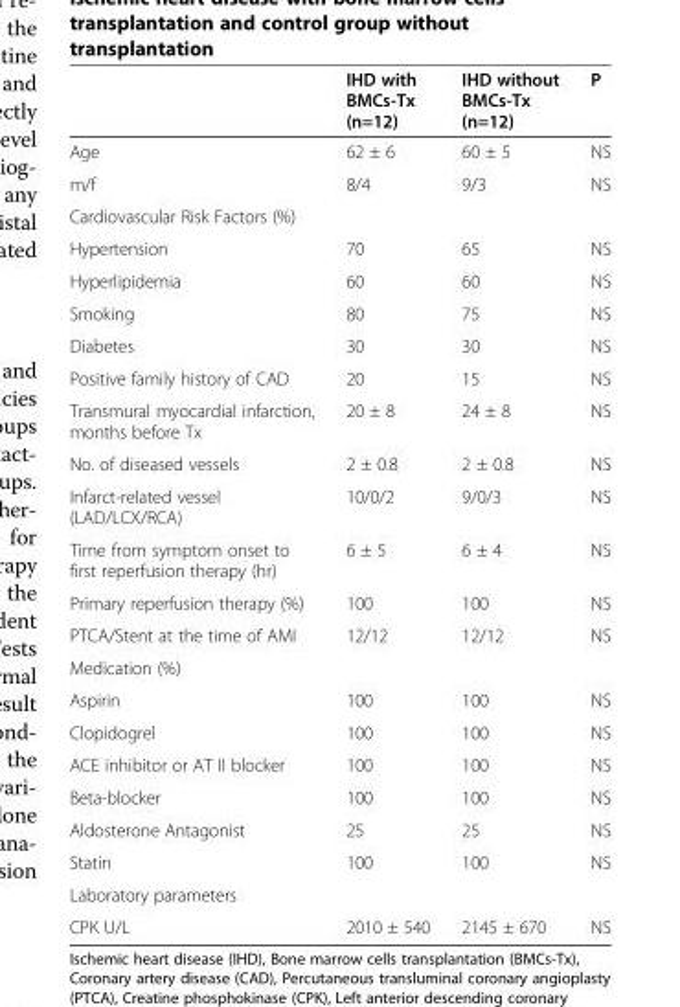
<table><thead><tr><td></td><td>IHD with BMCs-Tx (n=12)</td><td>IHD without BMCs-Tx (n=12)</td><td>P</td></tr></thead><tbody><tr><td>Age</td><td>62 ± 6</td><td>60 ± 5</td><td>NS</td></tr><tr><td>m/f</td><td>8/4</td><td>9/3</td><td>NS</td></tr><tr><td colspan="4">Cardiovascular Risk Factors (%)</td></tr><tr><td>Hypertension</td><td>70</td><td>65</td><td>NS</td></tr><tr><td>Hyperlipidemia</td><td>60</td><td>60</td><td>NS</td></tr><tr><td>Smoking</td><td>80</td><td>75</td><td>NS</td></tr><tr><td>Diabetes</td><td>30</td><td>30</td><td>NS</td></tr><tr><td>Positive family history of CAD</td><td>20</td><td>15</td><td>NS</td></tr><tr><td>Transmural myocardial infarction, months before Tx</td><td>20 ± 8</td><td>24 ± 8</td><td>NS</td></tr><tr><td>No. of diseased vessels</td><td>2 ± 0.8</td><td>2 ± 0.8</td><td>NS</td></tr><tr><td>Infarct-related vessel (LAD/LCX/RCA)</td><td>10/0/2</td><td>9/0/3</td><td>NS</td></tr><tr><td>Time from symptom onset to first reperfusion therapy (hr)</td><td>6 ± 5</td><td>6 ± 4</td><td>NS</td></tr><tr><td>Primary reperfusion therapy (%)</td><td>100</td><td>100</td><td>NS</td></tr><tr><td>PTCA/Stent at the time of AMI</td><td>12/12</td><td>12/12</td><td>NS</td></tr><tr><td colspan="4">Medication (%)</td></tr><tr><td>Aspirin</td><td>100</td><td>100</td><td>NS</td></tr><tr><td>Clopidogrel</td><td>100</td><td>100</td><td>NS</td></tr><tr><td>ACE inhibitor or AT II blocker</td><td>100</td><td>100</td><td>NS</td></tr><tr><td>Beta-blocker</td><td>100</td><td>100</td><td>NS</td></tr><tr><td>Aldosterone Antagonist</td><td>25</td><td>25</td><td>NS</td></tr><tr><td>Statin</td><td>100</td><td>100</td><td>NS</td></tr><tr><td colspan="4">Laboratory parameters</td></tr><tr><td>CPK U/L</td><td>2010 ± 540</td><td>2145 ± 670</td><td>NS</td></tr></tbody></table>